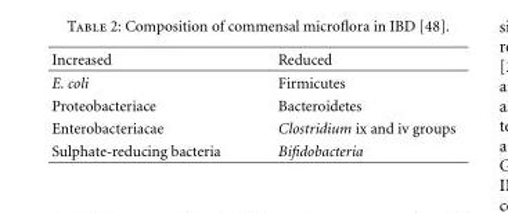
<table><thead><tr><td>Increased</td><td>Reduced</td></tr></thead><tbody><tr><td>E. coli</td><td>Firmicutes</td></tr><tr><td>Proteobacteriace</td><td>Bacteroidetes</td></tr><tr><td>Enterobacteriacae</td><td>Clostridium ix and iv groups</td></tr><tr><td>Sulphate-reducing bacteria</td><td>Bifidobacteria</td></tr></tbody></table>